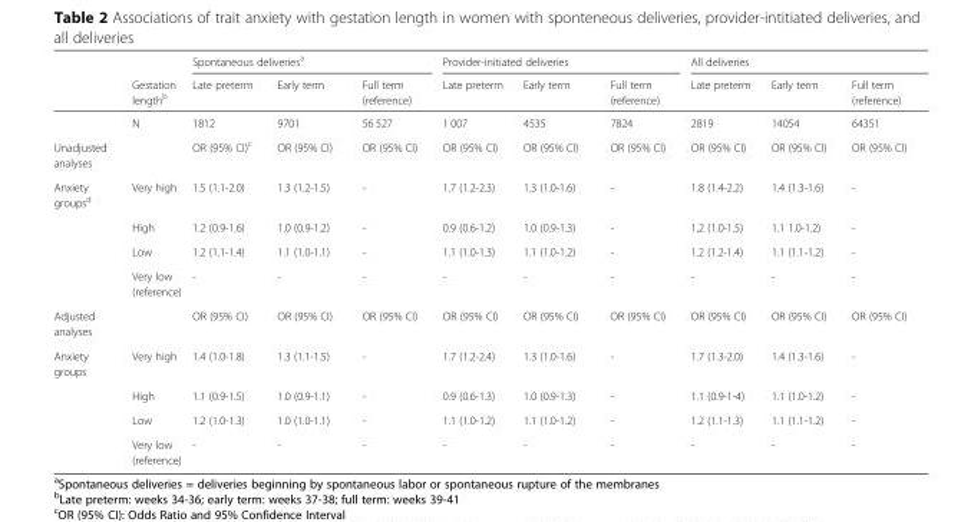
<table><thead><tr><td rowspan="2"></td><td rowspan="2">Gestation length<sup>b</sup></td><td colspan="3">Spontaneous deliveries<sup>a</sup></td><td colspan="3">Provider-initiated deliveries</td><td colspan="3">All deliveries</td></tr><tr><td>Late preterm</td><td>Early term</td><td>Full term (reference)</td><td>Late preterm</td><td>Early term</td><td>Full term (reference)</td><td>Late preterm</td><td>Early term</td><td>Full term (reference)</td></tr></thead><tbody><tr><td></td><td>N</td><td>1812</td><td>9701</td><td>56 527</td><td>1 007</td><td>4535</td><td>7824</td><td>2819</td><td>14054</td><td>64351</td></tr><tr><td>Unadjusted analyses</td><td></td><td>OR (95% CI)<sup>c</sup></td><td>OR (95% CI)</td><td>OR (95% CI)</td><td>OR (95% CI)</td><td>OR (95% CI)</td><td>OR (95% CI)</td><td>OR (95% CI)</td><td>OR (95% CI)</td><td>OR (95% CI)</td></tr><tr><td rowspan="4">Anxiety groups<sup>d</sup></td><td>Very high</td><td>1.5 (1.1-2.0)</td><td>1.3 (1.2-1.5)</td><td>-</td><td>1.7 (1.2-2.3)</td><td>1.3 (1.0-1.6)</td><td>-</td><td>1.8 (1.4-2.2)</td><td>1.4 (1.3-1.6)</td><td>-</td></tr><tr><td>High</td><td>1.2 (0.9-1.6)</td><td>1.0 (0.9-1.2)</td><td>-</td><td>0.9 (0.6-1.2)</td><td>1.0 (0.9-1.3)</td><td>-</td><td>1,2 (1.0-1.5)</td><td>1.1 1.0-1.2)</td><td>-</td></tr><tr><td>Low</td><td>1.2 (1.1-1.4)</td><td>1.1 (1.0-1.1)</td><td>-</td><td>1.1 (1.0-1.3)</td><td>1.1 (1.0-1.2)</td><td>-</td><td>1.2 (1.2-1.4)</td><td>1.1 (1.1-1.2)</td><td>-</td></tr><tr><td>Very low (reference)</td><td>-</td><td>-</td><td>-</td><td>-</td><td>-</td><td>-</td><td>-</td><td>-</td><td>-</td></tr><tr><td>Adjusted analyses</td><td></td><td>OR (95% CI)</td><td>OR (95% CI)</td><td>OR (95% CI)</td><td>OR (95% CI)</td><td>OR (95% CI)</td><td>OR (95% CI)</td><td>OR (95% CI)</td><td>OR (95% CI)</td><td>OR (95% CI)</td></tr><tr><td rowspan="4">Anxiety groups</td><td>Very high</td><td>1.4 (1.0-1.8)</td><td>1.3 (1.1-1.5)</td><td>-</td><td>1.7 (1.2-2.4)</td><td>1.3 (1.0-1.6)</td><td>-</td><td>1.7 (1.3-2.0)</td><td>1.4 (1.3-1.6)</td><td>-</td></tr><tr><td>High</td><td>1.1 (0.9-1.5)</td><td>1.0 (0.9-1.1)</td><td>-</td><td>0.9 (0.6-1.3)</td><td>1.0 (0.9-1.3)</td><td>-</td><td>1.1 (0.9-1-4)</td><td>1.1 (1.0-1.2)</td><td>-</td></tr><tr><td>Low</td><td>1.2 (1.0-1.3)</td><td>1.0 (1.0-1.1)</td><td>-</td><td>1.1 (1.0-1.2)</td><td>1.1 (1.0-1.2)</td><td>-</td><td>1.2 (1.1-1.3)</td><td>1.1 (1.1-1.2)</td><td>-</td></tr><tr><td>Very low (reference)</td><td>-</td><td>-</td><td>-</td><td>-</td><td>-</td><td>-</td><td>-</td><td>-</td><td>-</td></tr></tbody></table>